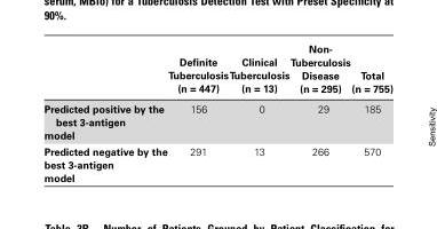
<table><thead><tr><td></td><td>Definite Tuberculosis (n = 447)</td><td>Clinical Tuberculosis (n = 13)</td><td>Non- Tuberculosis Disease (n = 295)</td><td>Total (n = 755)</td></tr></thead><tbody><tr><td>Predicted positive by the best 3-antigen model</td><td>156</td><td>0</td><td>29</td><td>185</td></tr><tr><td>Predicted negative by the best 3-antigen model</td><td>291</td><td>13</td><td>266</td><td>570</td></tr></tbody></table>